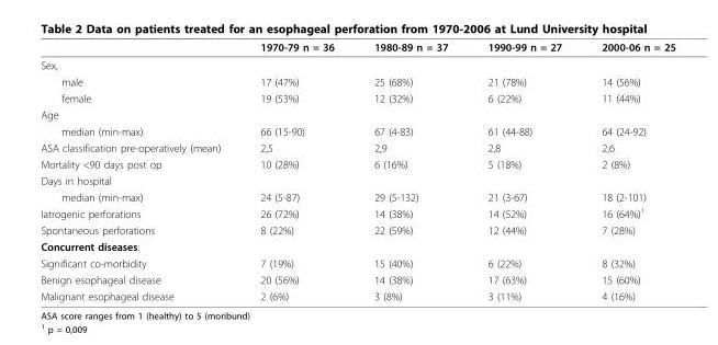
<table><thead><tr><td></td><td>1970-79 n = 36</td><td>1980-89 n = 37</td><td>1990-99 n = 27</td><td>2000-06 n = 25</td></tr></thead><tbody><tr><td colspan="5">Sex,</td></tr><tr><td>male</td><td>17 (47%)</td><td>25 (68%)</td><td>21 (78%)</td><td>14 (56%)</td></tr><tr><td>female</td><td>19 (53%)</td><td>12 (32%)</td><td>6 (22%)</td><td>11 (44%)</td></tr><tr><td colspan="5">Age</td></tr><tr><td>median (min-max)</td><td>66 (15-90)</td><td>67 (4-83)</td><td>61 (44-88)</td><td>64 (24-92)</td></tr><tr><td>ASA classification pre-operatively (mean)</td><td>2,5</td><td>2,9</td><td>2,8</td><td>2,6</td></tr><tr><td>Mortality &lt;90 days post op</td><td>10 (28%)</td><td>6 (16%)</td><td>5 (18%)</td><td>2 (8%)</td></tr><tr><td colspan="5">Days in hospital</td></tr><tr><td>median (min-max)</td><td>24 (5-87)</td><td>29 (5-132)</td><td>21 (3-67)</td><td>18 (2-101)</td></tr><tr><td>Iatrogenic perforations</td><td>26 (72%)</td><td>14 (38%)</td><td>14 (52%)</td><td>16 (64%)<sup>1</sup></td></tr><tr><td>Spontaneous perforations</td><td>8 (22%)</td><td>22 (59%)</td><td>12 (44%)</td><td>7 (28%)</td></tr><tr><td colspan="5">Concurrent diseases:</td></tr><tr><td>Significant co-morbidity</td><td>7 (19%)</td><td>15 (40%)</td><td>6 (22%)</td><td>8 (32%)</td></tr><tr><td>Benign esophageal disease</td><td>20 (56%)</td><td>14 (38%)</td><td>17 (63%)</td><td>15 (60%)</td></tr><tr><td>Malignant esophageal disease</td><td>2 (6%)</td><td>3 (8%)</td><td>3 (11%)</td><td>4 (16%)</td></tr></tbody></table>